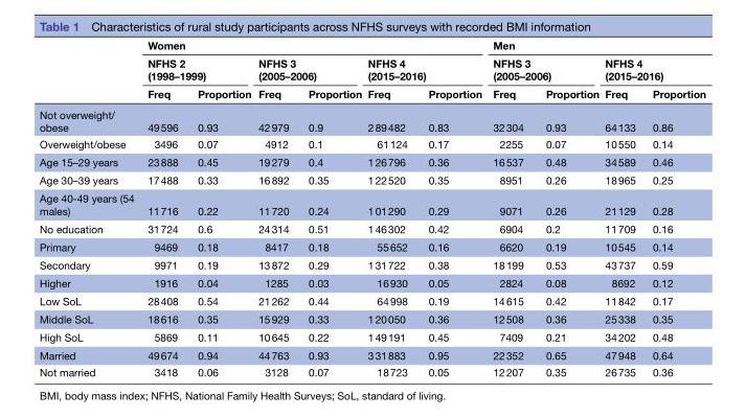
<table><thead><tr><td rowspan="3"></td><td colspan="6">Women</td><td colspan="4">Men</td></tr><tr><td colspan="2">NFHS 2 (1998–1999)</td><td colspan="2">NFHS 3 (2005–2006)</td><td colspan="2">NFHS 4 (2015–2016)</td><td colspan="2">NFHS 3 (2005–2006)</td><td colspan="2">NFHS 4 (2015–2016)</td></tr><tr><td>Freq</td><td>Proportion</td><td>Freq</td><td>Proportion</td><td>Freq</td><td>Proportion</td><td>Freq</td><td>Proportion</td><td>Freq</td><td>Proportion</td></tr></thead><tbody><tr><td>Not overweight/ obese</td><td>49 596</td><td>0.93</td><td>42 979</td><td>0.9</td><td>2 89 482</td><td>0.83</td><td>32 304</td><td>0.93</td><td>64 133</td><td>0.86</td></tr><tr><td>Overweight/obese</td><td>3496</td><td>0.07</td><td>4912</td><td>0.1</td><td>61 124</td><td>0.17</td><td>2255</td><td>0.07</td><td>10 550</td><td>0.14</td></tr><tr><td>Age 15–29 years</td><td>23 888</td><td>0.45</td><td>19 279</td><td>0.4</td><td>1 26 796</td><td>0.36</td><td>16 537</td><td>0.48</td><td>34 589</td><td>0.46</td></tr><tr><td>Age 30–39 years</td><td>17 488</td><td>0.33</td><td>16 892</td><td>0.35</td><td>1 22 520</td><td>0.35</td><td>8951</td><td>0.26</td><td>18 965</td><td>0.25</td></tr><tr><td>Age 40-49 years (54 males)</td><td>11 716</td><td>0.22</td><td>11 720</td><td>0.24</td><td>1 01 290</td><td>0.29</td><td>9071</td><td>0.26</td><td>21 129</td><td>0.28</td></tr><tr><td>No education</td><td>31 724</td><td>0.6</td><td>24 314</td><td>0.51</td><td>1 46 302</td><td>0.42</td><td>6904</td><td>0.2</td><td>11 709</td><td>0.16</td></tr><tr><td>Primary</td><td>9469</td><td>0.18</td><td>8417</td><td>0.18</td><td>55 652</td><td>0.16</td><td>6620</td><td>0.19</td><td>10 545</td><td>0.14</td></tr><tr><td>Secondary</td><td>9971</td><td>0.19</td><td>13 872</td><td>0.29</td><td>1 31 722</td><td>0.38</td><td>18 199</td><td>0.53</td><td>43 737</td><td>0.59</td></tr><tr><td>Higher</td><td>1916</td><td>0.04</td><td>1285</td><td>0.03</td><td>16 930</td><td>0.05</td><td>2824</td><td>0.08</td><td>8692</td><td>0.12</td></tr><tr><td>Low SoL</td><td>28 408</td><td>0.54</td><td>21 262</td><td>0.44</td><td>64 998</td><td>0.19</td><td>14 615</td><td>0.42</td><td>11 842</td><td>0.17</td></tr><tr><td>Middle SoL</td><td>18 616</td><td>0.35</td><td>15 929</td><td>0.33</td><td>1 20 050</td><td>0.36</td><td>12 508</td><td>0.36</td><td>25 338</td><td>0.35</td></tr><tr><td>High SoL</td><td>5869</td><td>0.11</td><td>10 645</td><td>0.22</td><td>1 49 191</td><td>0.45</td><td>7409</td><td>0.21</td><td>34 202</td><td>0.48</td></tr><tr><td>Married</td><td>49 674</td><td>0.94</td><td>44 763</td><td>0.93</td><td>3 31 883</td><td>0.95</td><td>22 352</td><td>0.65</td><td>47 948</td><td>0.64</td></tr><tr><td>Not married</td><td>3418</td><td>0.06</td><td>3128</td><td>0.07</td><td>18 723</td><td>0.05</td><td>12 207</td><td>0.35</td><td>26 735</td><td>0.36</td></tr></tbody></table>